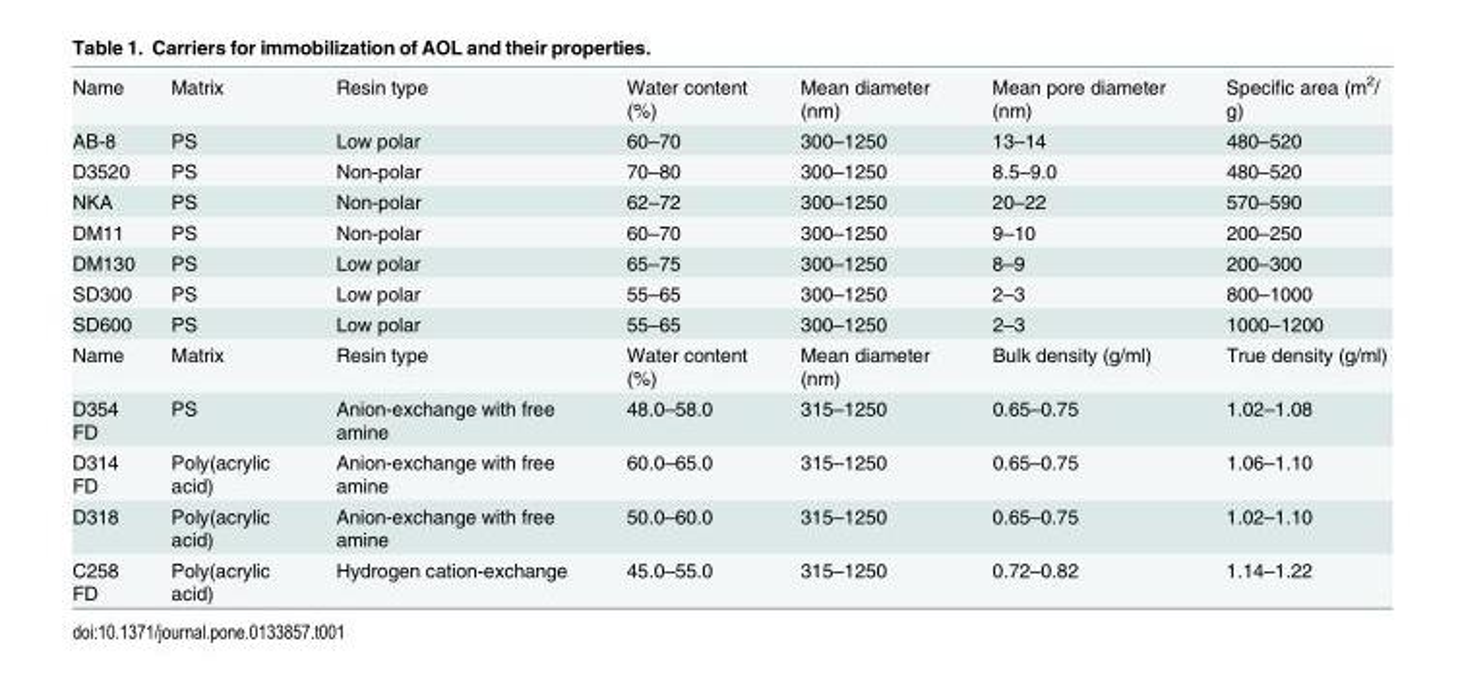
<table><tbody><tr><td>Name</td><td>Matrix</td><td>Resin type</td><td>Water content (%)</td><td>Mean diameter (nm)</td><td>Mean pore diameter (nm)</td><td>Specific area (m<sup>2</sup>/ g)</td></tr><tr><td>AB-8</td><td>PS</td><td>Low polar</td><td>60–70</td><td>300–1250</td><td>13–14</td><td>480–520</td></tr><tr><td>D3520</td><td>PS</td><td>Non-polar</td><td>70–80</td><td>300–1250</td><td>8.5–9.0</td><td>480–520</td></tr><tr><td>NKA</td><td>PS</td><td>Non-polar</td><td>62–72</td><td>300–1250</td><td>20–22</td><td>570–590</td></tr><tr><td>DM11</td><td>PS</td><td>Non-polar</td><td>60–70</td><td>300–1250</td><td>9–10</td><td>200–250</td></tr><tr><td>DM130</td><td>PS</td><td>Low polar</td><td>65–75</td><td>300–1250</td><td>8–9</td><td>200–300</td></tr><tr><td>SD300</td><td>PS</td><td>Low polar</td><td>55–65</td><td>300–1250</td><td>2–3</td><td>800–1000</td></tr><tr><td>SD600</td><td>PS</td><td>Low polar</td><td>55–65</td><td>300–1250</td><td>2–3</td><td>1000–1200</td></tr><tr><td>Name</td><td>Matrix</td><td>Resin type</td><td>Water content (%)</td><td>Mean diameter (nm)</td><td>Bulk density (g/ml)</td><td>True density (g/ml)</td></tr><tr><td>D354 FD</td><td>PS</td><td>Anion-exchange with free amine</td><td>48.0–58.0</td><td>315–1250</td><td>0.65–0.75</td><td>1.02–1.08</td></tr><tr><td>D314 FD</td><td>Poly(acrylic acid)</td><td>Anion-exchange with free amine</td><td>60.0–65.0</td><td>315–1250</td><td>0.65–0.75</td><td>1.06–1.10</td></tr><tr><td>D318</td><td>Poly(acrylic acid)</td><td>Anion-exchange with free amine</td><td>50.0–60.0</td><td>315–1250</td><td>0.65–0.75</td><td>1.02–1.10</td></tr><tr><td>C258 FD</td><td>Poly(acrylic acid)</td><td>Hydrogen cation-exchange</td><td>45.0–55.0</td><td>315–1250</td><td>0.72–0.82</td><td>1.14–1.22</td></tr></tbody></table>